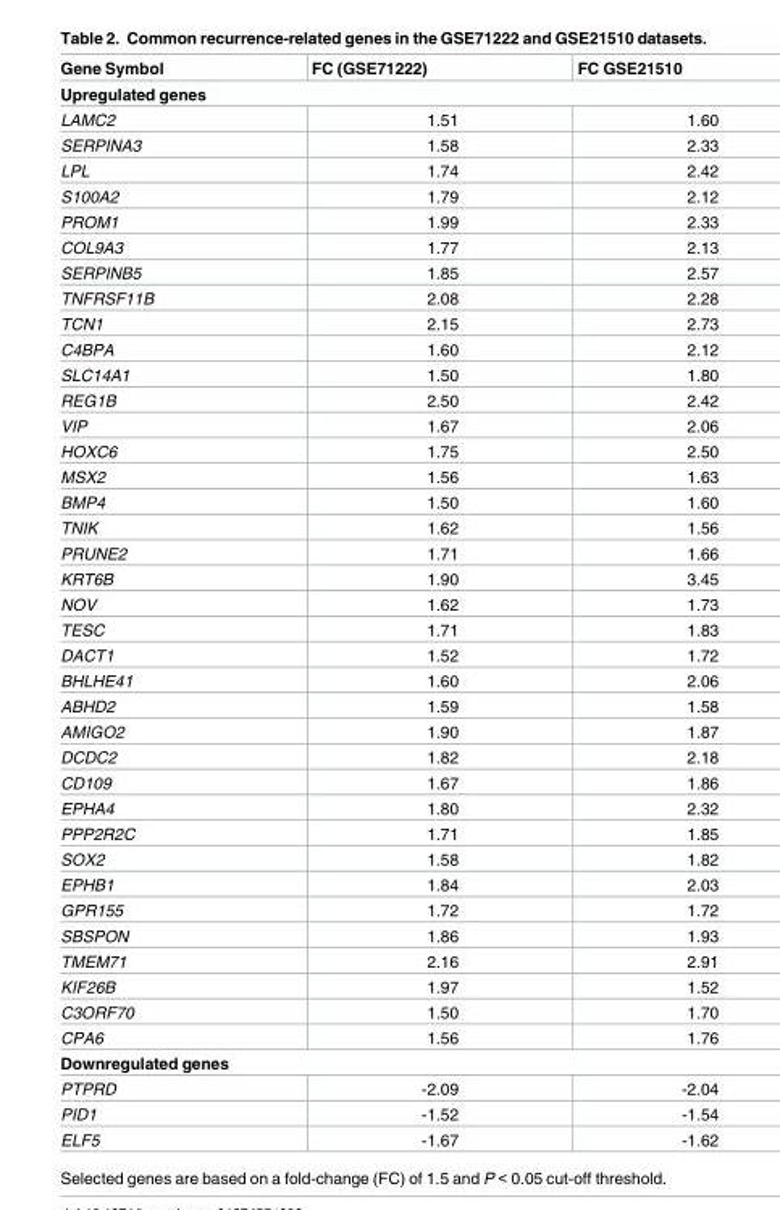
<table><thead><tr><td>Gene Symbol</td><td>FC (GSE71222)</td><td>FC GSE21510</td></tr></thead><tbody><tr><td colspan="3">Upregulated genes</td></tr><tr><td>LAMC2</td><td>1.51</td><td>1.60</td></tr><tr><td>SERPINA3</td><td>1.58</td><td>2.33</td></tr><tr><td>LPL</td><td>1.74</td><td>2.42</td></tr><tr><td>S100A2</td><td>1.79</td><td>2.12</td></tr><tr><td>PROM1</td><td>1.99</td><td>2.33</td></tr><tr><td>COL9A3</td><td>1.77</td><td>2.13</td></tr><tr><td>SERPINB5</td><td>1.85</td><td>2.57</td></tr><tr><td>TNFRSF11B</td><td>2.08</td><td>2.28</td></tr><tr><td>TCN1</td><td>2.15</td><td>2.73</td></tr><tr><td>C4BPA</td><td>1.60</td><td>2.12</td></tr><tr><td>SLC14A1</td><td>1.50</td><td>1.80</td></tr><tr><td>REG1B</td><td>2.50</td><td>2.42</td></tr><tr><td>VIP</td><td>1.67</td><td>2.06</td></tr><tr><td>HOXC6</td><td>1.75</td><td>2.50</td></tr><tr><td>MSX2</td><td>1.56</td><td>1.63</td></tr><tr><td>BMP4</td><td>1.50</td><td>1.60</td></tr><tr><td>TNIK</td><td>1.62</td><td>1.56</td></tr><tr><td>PRUNE2</td><td>1.71</td><td>1.66</td></tr><tr><td>KRT6B</td><td>1.90</td><td>3.45</td></tr><tr><td>NOV</td><td>1.62</td><td>1.73</td></tr><tr><td>TESC</td><td>1.71</td><td>1.83</td></tr><tr><td>DACT1</td><td>1.52</td><td>1.72</td></tr><tr><td>BHLHE41</td><td>1.60</td><td>2.06</td></tr><tr><td>ABHD2</td><td>1.59</td><td>1.58</td></tr><tr><td>AMIGO2</td><td>1.90</td><td>1.87</td></tr><tr><td>DCDC2</td><td>1.82</td><td>2.18</td></tr><tr><td>CD109</td><td>1.67</td><td>1.86</td></tr><tr><td>EPHA4</td><td>1.80</td><td>2.32</td></tr><tr><td>PPP2R2C</td><td>1.71</td><td>1.85</td></tr><tr><td>SOX2</td><td>1.58</td><td>1.82</td></tr><tr><td>EPHB1</td><td>1.84</td><td>2.03</td></tr><tr><td>GPR155</td><td>1.72</td><td>1.72</td></tr><tr><td>SBSPON</td><td>1.86</td><td>1.93</td></tr><tr><td>TMEM71</td><td>2.16</td><td>2.91</td></tr><tr><td>KIF26B</td><td>1.97</td><td>1.52</td></tr><tr><td>C3ORF70</td><td>1.50</td><td>1.70</td></tr><tr><td>CPA6</td><td>1.56</td><td>1.76</td></tr><tr><td colspan="3">Downregulated genes</td></tr><tr><td>PTPRD</td><td>-2.09</td><td>-2.04</td></tr><tr><td>PID1</td><td>-1.52</td><td>-1.54</td></tr><tr><td>ELF5</td><td>-1.67</td><td>-1.62</td></tr></tbody></table>